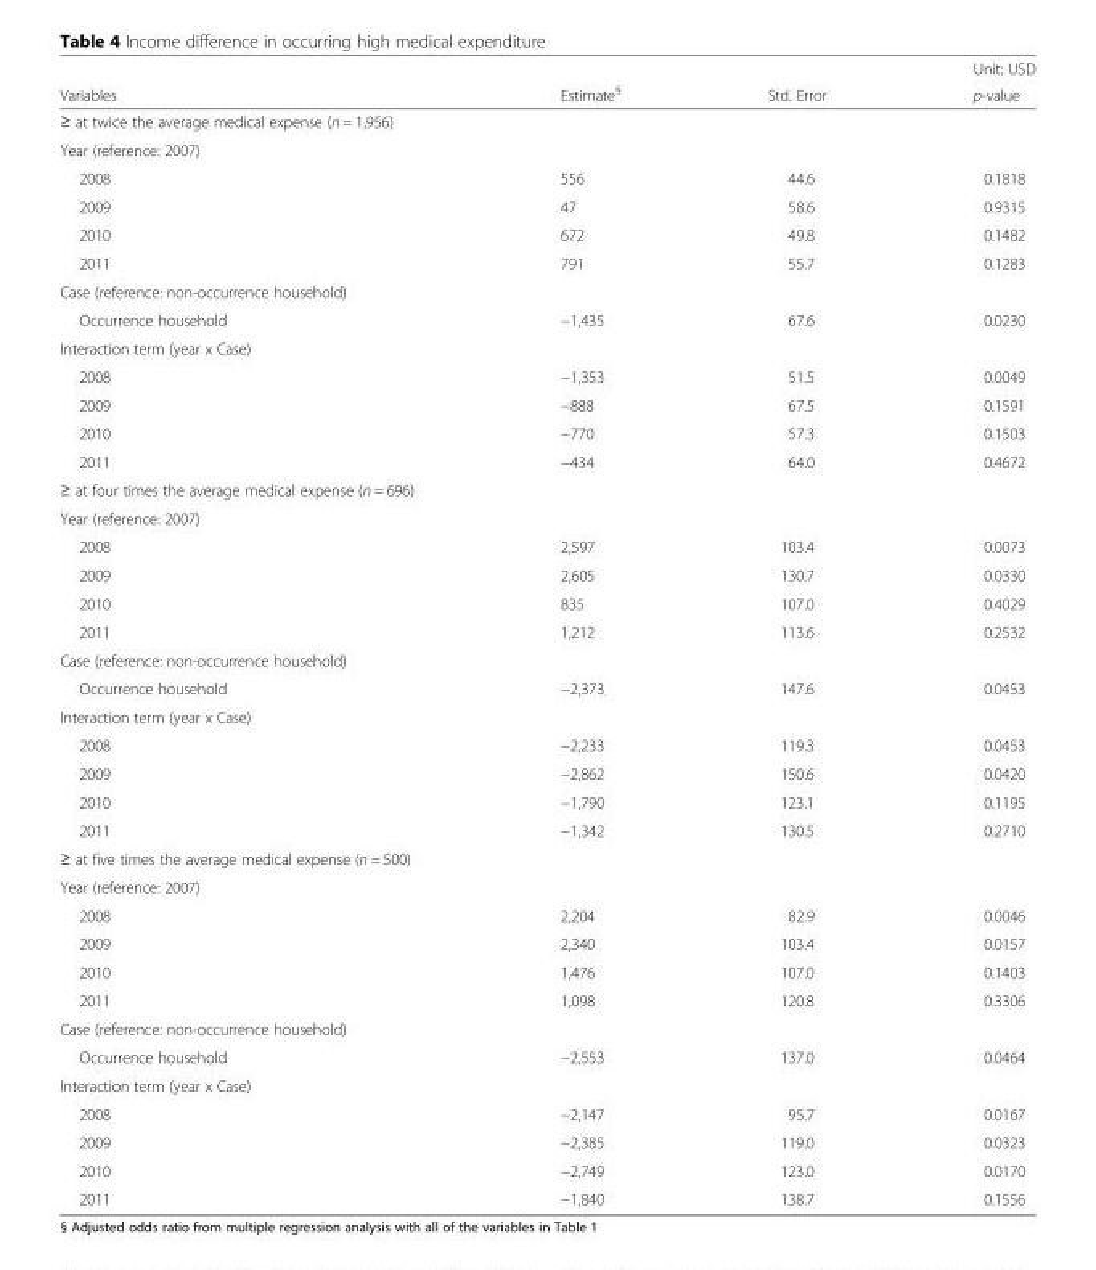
<table><thead><tr><td rowspan="2">Variables</td><td rowspan="2">Estimate<sup>§</sup></td><td rowspan="2">Std. Error</td><td rowspan="2">Unit: USD p-value</td></tr><tr></tr></thead><tbody><tr><td colspan="4">≥ at twice the average medical expense (n = 1,956)</td></tr><tr><td colspan="4">Year (reference: 2007)</td></tr><tr><td>2008</td><td>556</td><td>44.6</td><td>0.1818</td></tr><tr><td>2009</td><td>47</td><td>58.6</td><td>0.9315</td></tr><tr><td>2010</td><td>672</td><td>49.8</td><td>0.1482</td></tr><tr><td>2011</td><td>791</td><td>55.7</td><td>0.1283</td></tr><tr><td colspan="4">Case (reference: non-occurrence household)</td></tr><tr><td>Occurrence household</td><td>−1,435</td><td>67.6</td><td>0.0230</td></tr><tr><td colspan="4">Interaction term (year x Case)</td></tr><tr><td>2008</td><td>−1,353</td><td>51.5</td><td>0.0049</td></tr><tr><td>2009</td><td>−888</td><td>67.5</td><td>0.1591</td></tr><tr><td>2010</td><td>−770</td><td>57.3</td><td>0.1503</td></tr><tr><td>2011</td><td>−434</td><td>64.0</td><td>0.4672</td></tr><tr><td colspan="4">≥ at four times the average medical expense (n = 696)</td></tr><tr><td colspan="4">Year (reference: 2007)</td></tr><tr><td>2008</td><td>2,597</td><td>103.4</td><td>0.0073</td></tr><tr><td>2009</td><td>2,605</td><td>130.7</td><td>0.0330</td></tr><tr><td>2010</td><td>835</td><td>107.0</td><td>0.4029</td></tr><tr><td>2011</td><td>1,212</td><td>113.6</td><td>0.2532</td></tr><tr><td colspan="4">Case (reference: non-occurrence household)</td></tr><tr><td>Occurrence household</td><td>−2,373</td><td>147.6</td><td>0.0453</td></tr><tr><td colspan="4">Interaction term (year x Case)</td></tr><tr><td>2008</td><td>−2,233</td><td>119.3</td><td>0.0453</td></tr><tr><td>2009</td><td>−2,862</td><td>150.6</td><td>0.0420</td></tr><tr><td>2010</td><td>−1,790</td><td>123.1</td><td>0.1195</td></tr><tr><td>2011</td><td>−1,342</td><td>130.5</td><td>0.2710</td></tr><tr><td colspan="4">≥ at five times the average medical expense (n = 500)</td></tr><tr><td colspan="4">Year (reference: 2007)</td></tr><tr><td>2008</td><td>2,204</td><td>82.9</td><td>0.0046</td></tr><tr><td>2009</td><td>2,340</td><td>103.4</td><td>0.0157</td></tr><tr><td>2010</td><td>1,476</td><td>107.0</td><td>0.1403</td></tr><tr><td>2011</td><td>1,098</td><td>120.8</td><td>0.3306</td></tr><tr><td colspan="4">Case (reference: non-occurrence household)</td></tr><tr><td>Occurrence household</td><td>−2,553</td><td>137.0</td><td>0.0464</td></tr><tr><td colspan="4">Interaction term (year x Case)</td></tr><tr><td>2008</td><td>−2,147</td><td>95.7</td><td>0.0167</td></tr><tr><td>2009</td><td>−2,385</td><td>119.0</td><td>0.0323</td></tr><tr><td>2010</td><td>−2,749</td><td>123.0</td><td>0.0170</td></tr><tr><td>2011</td><td>−1,840</td><td>138.7</td><td>0.1556</td></tr></tbody></table>